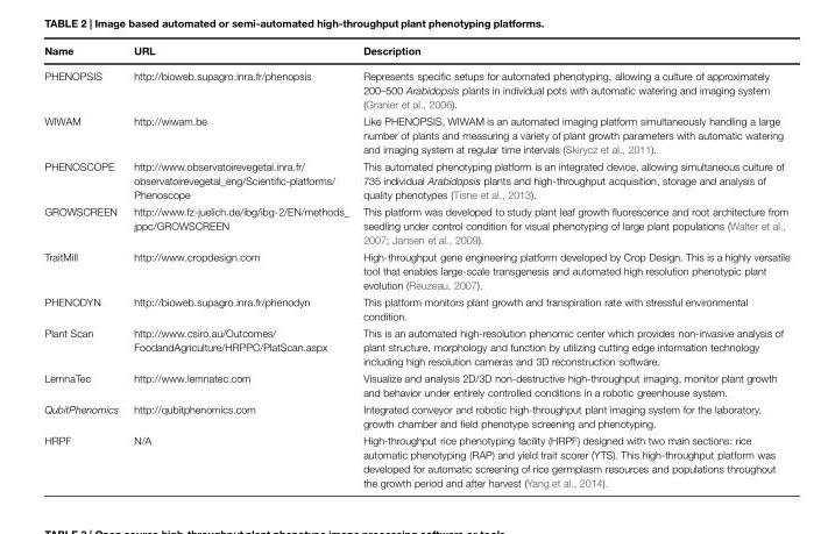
<table><thead><tr><td>Name</td><td>URL</td><td>Description</td></tr></thead><tbody><tr><td>PHENOPSIS</td><td>http://bioweb.supagro.inra.fr/phenopsis</td><td>Represents specific setups for automated phenotyping, allowing a culture of approximately 200–500 Arabidopsis plants in individual pots with automatic watering and imaging system (Granier et al., 2006).</td></tr><tr><td>WIWAM</td><td>http://wiwam.be</td><td>Like PHENOPSIS, WIWAM is an automated imaging platform simultaneously handling a large number of plants and measuring a variety of plant growth parameters with automatic watering and imaging system at regular time intervals (Skirycz et al., 2011).</td></tr><tr><td>PHENOSCOPE</td><td>http://www.observatoirevegetal.inra.fr/ observatoirevegetal_eng/Scientific-platforms/ Phenoscope</td><td>This automated phenotyping platform is an integrated device, allowing simultaneous culture of 735 individual Arabidopsis plants and high-throughput acquisition, storage and analysis of quality phenotypes (Tisne et al., 2013).</td></tr><tr><td>GROWSCREEN</td><td>http://www.fz-juelich.de/ibg/ibg-2/EN/methods_ jppc/GROWSCREEN</td><td>This platform was developed to study plant leaf growth fluorescence and root architecture from seedling under control condition for visual phenotyping of large plant populations (Walter et al., 2007; Jansen et al., 2009).</td></tr><tr><td>TraitMill</td><td>http://www.cropdesign.com</td><td>High-throughput gene engineering platform developed by Crop Design. This is a highly versatile tool that enables large-scale transgenesis and automated high resolution phenotypic plant evolution (Reuzeau, 2007).</td></tr><tr><td>PHENODYN</td><td>http://bioweb.supagro.inra.fr/phenodyn</td><td>This platform monitors plant growth and transpiration rate with stressful environmental condition.</td></tr><tr><td>Plant Scan</td><td>http://www.csiro.au/Outcomes/ FoodandAgriculture/HRPPC/PlatScan.aspx</td><td>This is an automated high-resolution phenomic center which provides non-invasive analysis of plant structure, morphology and function by utilizing cutting edge information technology including high resolution cameras and 3D reconstruction software.</td></tr><tr><td>LemnaTec</td><td>http://www.lemnatec.com</td><td>Visualize and analysis 2D/3D non-destructive high-throughput imaging, monitor plant growth and behavior under entirely controlled conditions in a robotic greenhouse system.</td></tr><tr><td>QubitPhenomics</td><td>http://qubitphenomics.com</td><td>Integrated conveyor and robotic high-throughput plant imaging system for the laboratory, growth chamber and field phenotype screening and phenotyping.</td></tr><tr><td>HRPF</td><td>N/A</td><td>High-throughput rice phenotyping facility (HRPF) designed with two main sections: rice automatic phenotyping (RAP) and yield trait scorer (YTS). This high-throughput platform was developed for automatic screening of rice germplasm resources and populations throughout the growth period and after harvest (Yang et al., 2014).</td></tr></tbody></table>